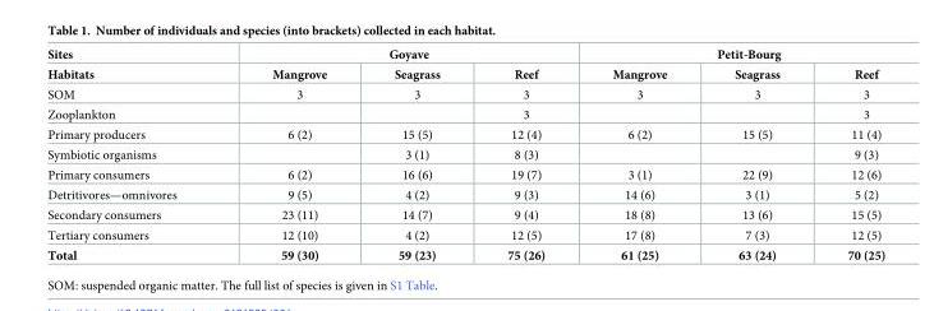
<table><thead><tr><td rowspan="2">Sites Habitats</td><td colspan="3">Goyave</td><td colspan="3">Petit-Bourg</td></tr><tr><td>Mangrove</td><td>Seagrass</td><td>Reef</td><td>Mangrove</td><td>Seagrass</td><td>Reef</td></tr></thead><tbody><tr><td>SOM</td><td>3</td><td>3</td><td>3</td><td>3</td><td>3</td><td>3</td></tr><tr><td>Zooplankton</td><td></td><td></td><td>3</td><td></td><td></td><td>3</td></tr><tr><td>Primary producers</td><td>6 (2)</td><td>15 (5)</td><td>12 (4)</td><td>6 (2)</td><td>15 (5)</td><td>11 (4)</td></tr><tr><td>Symbiotic organisms</td><td></td><td>3 (1)</td><td>8 (3)</td><td></td><td></td><td>9 (3)</td></tr><tr><td>Primary consumers</td><td>6 (2)</td><td>16 (6)</td><td>19 (7)</td><td>3 (1)</td><td>22 (9)</td><td>12 (6)</td></tr><tr><td>Detritivores—omnivores</td><td>9 (5)</td><td>4 (2)</td><td>9 (3)</td><td>14 (6)</td><td>3 (1)</td><td>5 (2)</td></tr><tr><td>Secondary consumers</td><td>23 (11)</td><td>14 (7)</td><td>9 (4)</td><td>18 (8)</td><td>13 (6)</td><td>15 (5)</td></tr><tr><td>Tertiary consumers</td><td>12 (10)</td><td>4 (2)</td><td>12 (5)</td><td>17 (8)</td><td>7 (3)</td><td>12 (5)</td></tr><tr><td>Total</td><td>59 (30)</td><td>59 (23)</td><td>75 (26)</td><td>61 (25)</td><td>63 (24)</td><td>70 (25)</td></tr></tbody></table>